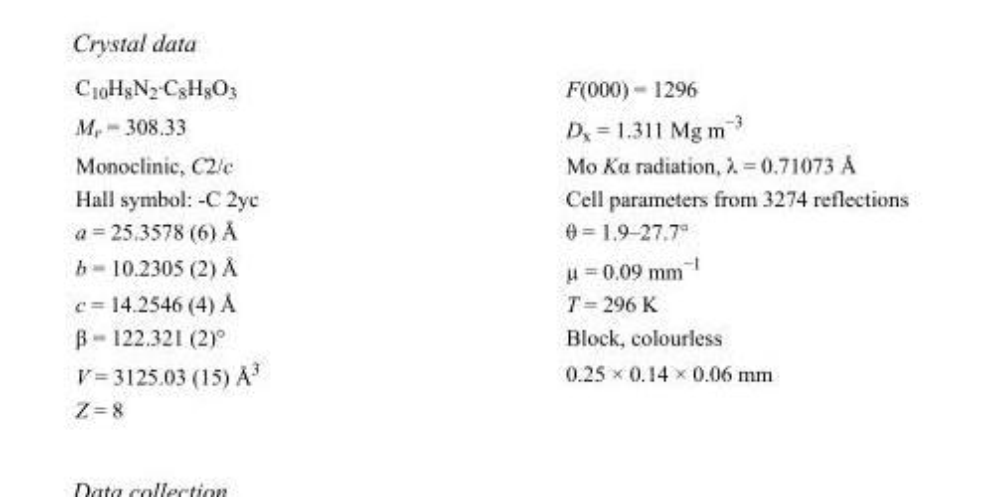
<table><tbody><tr><td>C<sub>10</sub>H<sub>8</sub>N<sub>2</sub>·C<sub>8</sub>H<sub>8</sub>O<sub>3</sub></td><td>F(000) = 1296</td></tr><tr><td>M<sub>r</sub> = 308.33</td><td>D<sub>x</sub> = 1.311 Mg m<sup>−3</sup></td></tr><tr><td>Monoclinic, C2/c</td><td>Mo Kα radiation, λ = 0.71073 Å</td></tr><tr><td>Hall symbol: -C 2yc</td><td>Cell parameters from 3274 reflections</td></tr><tr><td>a = 25.3578 (6) Å</td><td>θ = 1.9–27.7°</td></tr><tr><td>b = 10.2305 (2) Å</td><td>µ = 0.09 mm<sup>−1</sup></td></tr><tr><td>c = 14.2546 (4) Å</td><td>T = 296 K</td></tr><tr><td>β = 122.321 (2)°</td><td>Block, colourless</td></tr><tr><td>V = 3125.03 (15) Å<sup>3</sup></td><td>0.25 × 0.14 × 0.06 mm</td></tr><tr><td>Z = 8</td><td></td></tr></tbody></table>